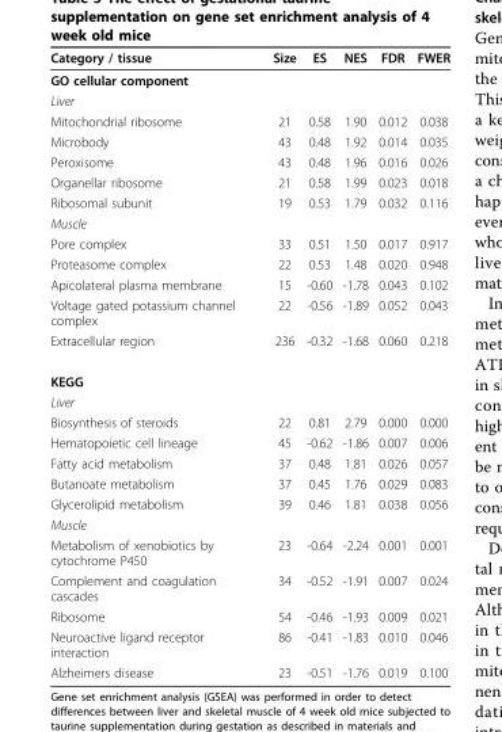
<table><thead><tr><td>Category / tissue</td><td>Size</td><td>ES</td><td>NES</td><td>FDR</td><td>FWER</td></tr></thead><tbody><tr><td colspan="6">GO cellular component</td></tr><tr><td colspan="6">Liver</td></tr><tr><td>Mitochondrial ribosome</td><td>21</td><td>0.58</td><td>1.90</td><td>0.012</td><td>0.038</td></tr><tr><td>Microbody</td><td>43</td><td>0.48</td><td>1.92</td><td>0.014</td><td>0.035</td></tr><tr><td>Peroxisome</td><td>43</td><td>0.48</td><td>1.96</td><td>0.016</td><td>0.026</td></tr><tr><td>Organellar ribosome</td><td>21</td><td>0.58</td><td>1.99</td><td>0.023</td><td>0.018</td></tr><tr><td>Ribosomal subunit</td><td>19</td><td>0.53</td><td>1.79</td><td>0.032</td><td>0.116</td></tr><tr><td colspan="6">Muscle</td></tr><tr><td>Pore complex</td><td>33</td><td>0.51</td><td>1.50</td><td>0.017</td><td>0.917</td></tr><tr><td>Proteasome complex</td><td>22</td><td>0.53</td><td>1.48</td><td>0.020</td><td>0.948</td></tr><tr><td>Apicolateral plasma membrane</td><td>15</td><td>-0.60</td><td>-1.78</td><td>0.043</td><td>0.102</td></tr><tr><td>Voltage gated potassium channel complex</td><td>22</td><td>-0.56</td><td>-1.89</td><td>0.052</td><td>0.043</td></tr><tr><td>Extracellular region</td><td>236</td><td>-0.32</td><td>-1.68</td><td>0.060</td><td>0.218</td></tr><tr><td colspan="6">KEGG</td></tr><tr><td colspan="6">Liver</td></tr><tr><td>Biosynthesis of steroids</td><td>22</td><td>0.81</td><td>2.79</td><td>0.000</td><td>0.000</td></tr><tr><td>Hematopoietic cell lineage</td><td>45</td><td>-0.62</td><td>-1.86</td><td>0.007</td><td>0.006</td></tr><tr><td>Fatty acid metabolism</td><td>37</td><td>0.48</td><td>1.81</td><td>0.026</td><td>0.057</td></tr><tr><td>Butanoate metabolism</td><td>37</td><td>0.45</td><td>1.76</td><td>0.029</td><td>0.083</td></tr><tr><td>Glycerolipid metabolism</td><td>39</td><td>0.46</td><td>1.81</td><td>0.038</td><td>0.056</td></tr><tr><td colspan="6">Muscle</td></tr><tr><td>Metabolism of xenobiotics by cytochrome P450</td><td>23</td><td>-0.64</td><td>-2.24</td><td>0.001</td><td>0.001</td></tr><tr><td>Complement and coagulation cascades</td><td>34</td><td>-0.52</td><td>-1.91</td><td>0.007</td><td>0.024</td></tr><tr><td>Ribosome</td><td>54</td><td>-0.46</td><td>-1.93</td><td>0.009</td><td>0.021</td></tr><tr><td>Neuroactive ligand receptor interaction</td><td>86</td><td>-0.41</td><td>-1.83</td><td>0.010</td><td>0.046</td></tr><tr><td>Alzheimers disease</td><td>23</td><td>-0.51</td><td>-1.76</td><td>0.019</td><td>0.100</td></tr></tbody></table>